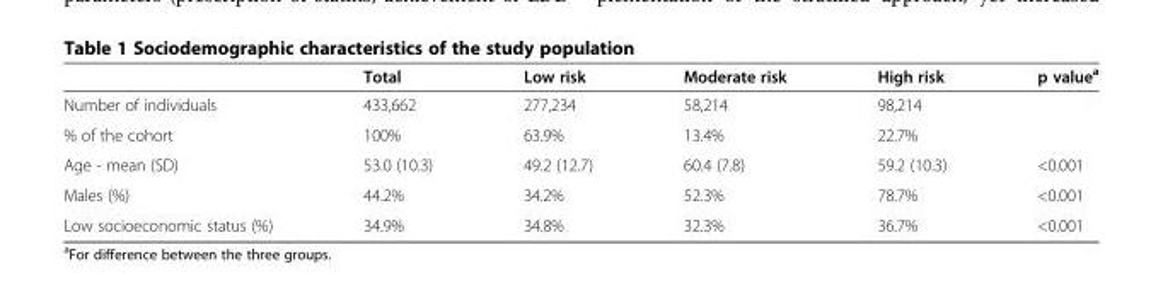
<table><thead><tr><td></td><td>Total</td><td>Low risk</td><td>Moderate risk</td><td>High risk</td><td>p value<sup>a</sup></td></tr></thead><tbody><tr><td>Number of individuals</td><td>433,662</td><td>277,234</td><td>58,214</td><td>98,214</td><td></td></tr><tr><td>% of the cohort</td><td>100%</td><td>63.9%</td><td>13.4%</td><td>22.7%</td><td></td></tr><tr><td>Age - mean (SD)</td><td>53.0 (10.3)</td><td>49.2 (12.7)</td><td>60.4 (7.8)</td><td>59.2 (10.3)</td><td>&lt;0.001</td></tr><tr><td>Males (%)</td><td>44.2%</td><td>34.2%</td><td>52.3%</td><td>78.7%</td><td>&lt;0.001</td></tr><tr><td>Low socioeconomic status (%)</td><td>34.9%</td><td>34.8%</td><td>32.3%</td><td>36.7%</td><td>&lt;0.001</td></tr></tbody></table>